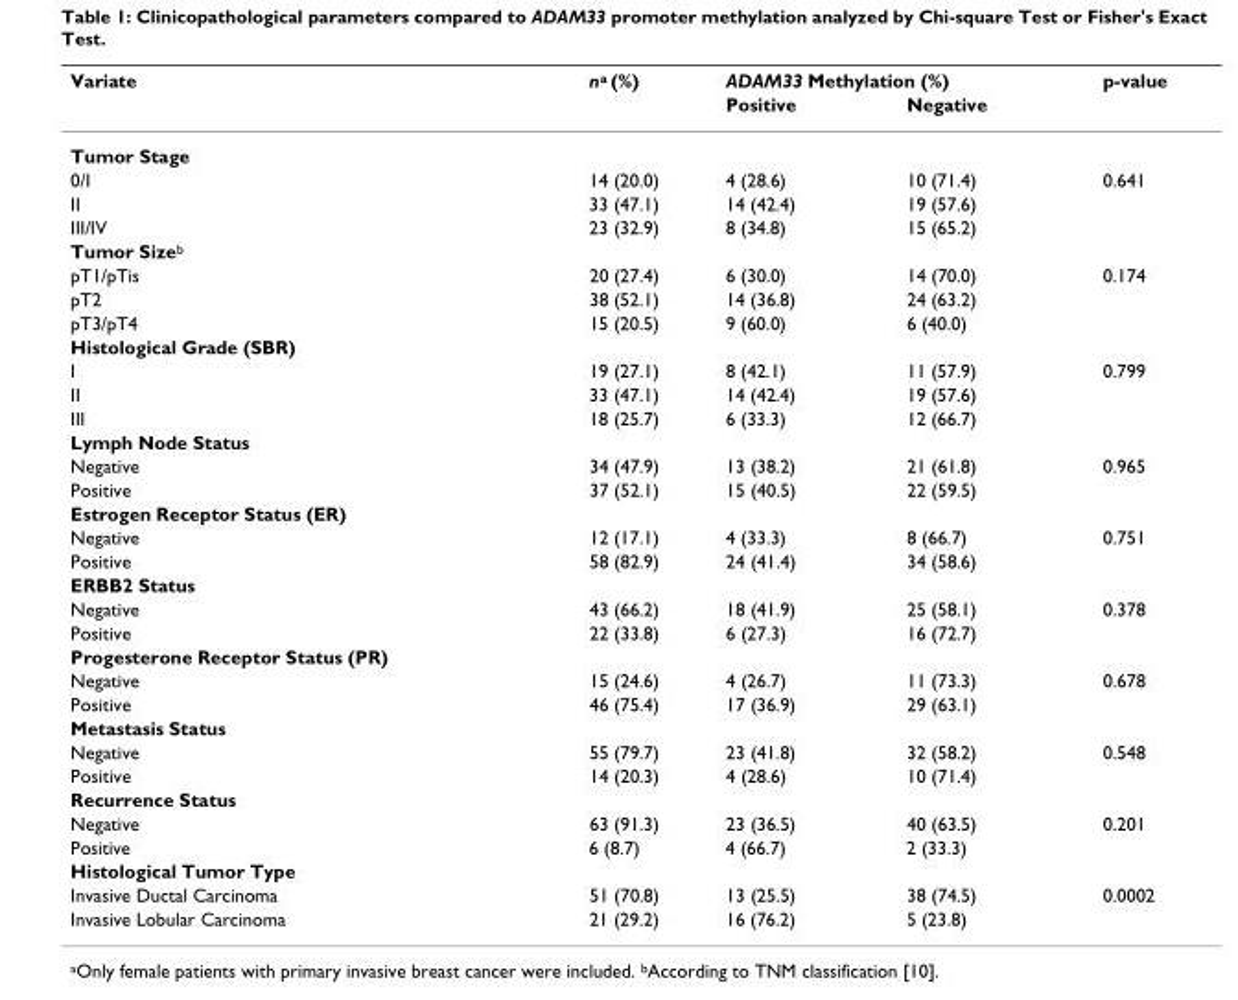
<table><thead><tr><td rowspan="2">Variate</td><td rowspan="2">n<sup>a</sup> (%)</td><td colspan="2">ADAM33 Methylation (%)</td><td rowspan="2">p-value</td></tr><tr><td>Positive</td><td>Negative</td></tr></thead><tbody><tr><td colspan="5">Tumor Stage</td></tr><tr><td>0/I</td><td>14 (20.0)</td><td>4 (28.6)</td><td>10 (71.4)</td><td>0.641</td></tr><tr><td>II</td><td>33 (47.1)</td><td>14 (42.4)</td><td>19 (57.6)</td><td></td></tr><tr><td>III/IV</td><td>23 (32.9)</td><td>8 (34.8)</td><td>15 (65.2)</td><td></td></tr><tr><td colspan="5">Tumor Size<sup>b</sup></td></tr><tr><td>pT1/pTis</td><td>20 (27.4)</td><td>6 (30.0)</td><td>14 (70.0)</td><td>0.174</td></tr><tr><td>pT2</td><td>38 (52.1)</td><td>14 (36.8)</td><td>24 (63.2)</td><td></td></tr><tr><td>pT3/pT4</td><td>15 (20.5)</td><td>9 (60.0)</td><td>6 (40.0)</td><td></td></tr><tr><td colspan="5">Histological Grade (SBR)</td></tr><tr><td>I</td><td>19 (27.1)</td><td>8 (42.1)</td><td>11 (57.9)</td><td>0.799</td></tr><tr><td>II</td><td>33 (47.1)</td><td>14 (42.4)</td><td>19 (57.6)</td><td></td></tr><tr><td>III</td><td>18 (25.7)</td><td>6 (33.3)</td><td>12 (66.7)</td><td></td></tr><tr><td colspan="5">Lymph Node Status</td></tr><tr><td>Negative</td><td>34 (47.9)</td><td>13 (38.2)</td><td>21 (61.8)</td><td>0.965</td></tr><tr><td>Positive</td><td>37 (52.1)</td><td>15 (40.5)</td><td>22 (59.5)</td><td></td></tr><tr><td colspan="5">Estrogen Receptor Status (ER)</td></tr><tr><td>Negative</td><td>12 (17.1)</td><td>4 (33.3)</td><td>8 (66.7)</td><td>0.751</td></tr><tr><td>Positive</td><td>58 (82.9)</td><td>24 (41.4)</td><td>34 (58.6)</td><td></td></tr><tr><td colspan="5">ERBB2 Status</td></tr><tr><td>Negative</td><td>43 (66.2)</td><td>18 (41.9)</td><td>25 (58.1)</td><td>0.378</td></tr><tr><td>Positive</td><td>22 (33.8)</td><td>6 (27.3)</td><td>16 (72.7)</td><td></td></tr><tr><td colspan="5">Progesterone Receptor Status (PR)</td></tr><tr><td>Negative</td><td>15 (24.6)</td><td>4 (26.7)</td><td>11 (73.3)</td><td>0.678</td></tr><tr><td>Positive</td><td>46 (75.4)</td><td>17 (36.9)</td><td>29 (63.1)</td><td></td></tr><tr><td colspan="5">Metastasis Status</td></tr><tr><td>Negative</td><td>55 (79.7)</td><td>23 (41.8)</td><td>32 (58.2)</td><td>0.548</td></tr><tr><td>Positive</td><td>14 (20.3)</td><td>4 (28.6)</td><td>10 (71.4)</td><td></td></tr><tr><td colspan="5">Recurrence Status</td></tr><tr><td>Negative</td><td>63 (91.3)</td><td>23 (36.5)</td><td>40 (63.5)</td><td>0.201</td></tr><tr><td>Positive</td><td>6 (8.7)</td><td>4 (66.7)</td><td>2 (33.3)</td><td></td></tr><tr><td colspan="5">Histological Tumor Type</td></tr><tr><td>Invasive Ductal Carcinoma</td><td>51 (70.8)</td><td>13 (25.5)</td><td>38 (74.5)</td><td>0.0002</td></tr><tr><td>Invasive Lobular Carcinoma</td><td>21 (29.2)</td><td>16 (76.2)</td><td>5 (23.8)</td><td></td></tr></tbody></table>